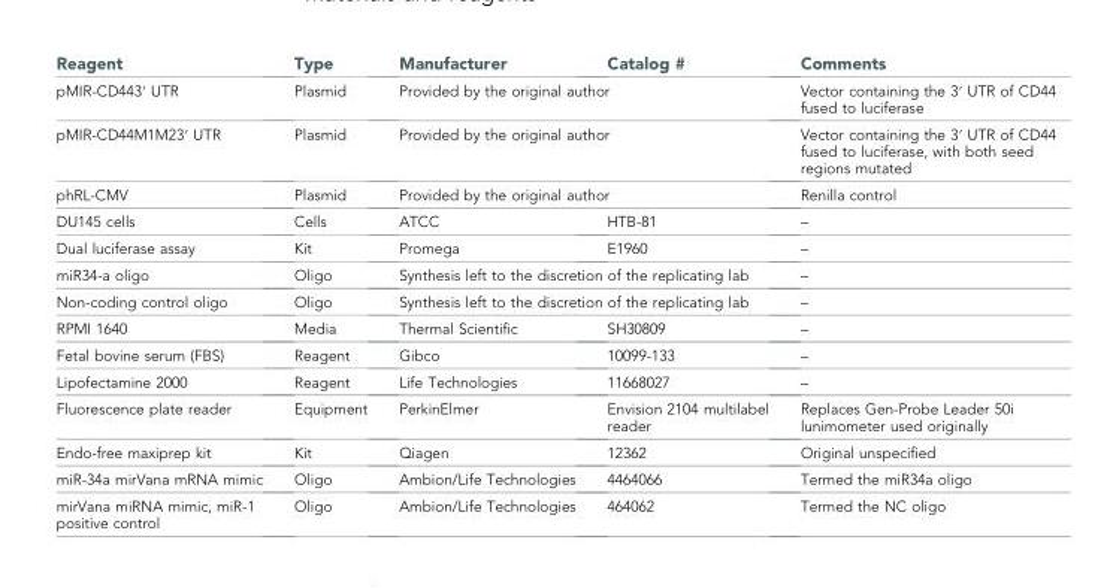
<table><thead><tr><td>Reagent</td><td>Type</td><td>Manufacturer</td><td>Catalog #</td><td>Comments</td></tr></thead><tbody><tr><td>pMIR-CD443′ UTR</td><td>Plasmid</td><td colspan="2">Provided by the original author</td><td>Vector containing the 3′ UTR of CD44 fused to luciferase</td></tr><tr><td>pMIR-CD44M1M23′ UTR</td><td>Plasmid</td><td colspan="2">Provided by the original author</td><td>Vector containing the 3′ UTR of CD44 fused to luciferase, with both seed regions mutated</td></tr><tr><td>phRL-CMV</td><td>Plasmid</td><td colspan="2">Provided by the original author</td><td>Renilla control</td></tr><tr><td>DU145 cells</td><td>Cells</td><td>ATCC</td><td>HTB-81</td><td>–</td></tr><tr><td>Dual luciferase assay</td><td>Kit</td><td>Promega</td><td>E1960</td><td>–</td></tr><tr><td>miR34-a oligo</td><td>Oligo</td><td colspan="2">Synthesis left to the discretion of the replicating lab</td><td>–</td></tr><tr><td>Non-coding control oligo</td><td>Oligo</td><td colspan="2">Synthesis left to the discretion of the replicating lab</td><td>–</td></tr><tr><td>RPMI 1640</td><td>Media</td><td>Thermal Scientific</td><td>SH30809</td><td>–</td></tr><tr><td>Fetal bovine serum (FBS)</td><td>Reagent</td><td>Gibco</td><td>10099-133</td><td>–</td></tr><tr><td>Lipofectamine 2000</td><td>Reagent</td><td>Life Technologies</td><td>11668027</td><td>–</td></tr><tr><td>Fluorescence plate reader</td><td>Equipment</td><td>PerkinElmer</td><td>Envision 2104 multilabel reader</td><td>Replaces Gen-Probe Leader 50i lunimometer used originally</td></tr><tr><td>Endo-free maxiprep kit</td><td>Kit</td><td>Qiagen</td><td>12362</td><td>Original unspecified</td></tr><tr><td>miR-34a mirVana mRNA mimic</td><td>Oligo</td><td>Ambion/Life Technologies</td><td>4464066</td><td>Termed the miR34a oligo</td></tr><tr><td>mirVana miRNA mimic, miR-1 positive control</td><td>Oligo</td><td>Ambion/Life Technologies</td><td>464062</td><td>Termed the NC oligo</td></tr></tbody></table>